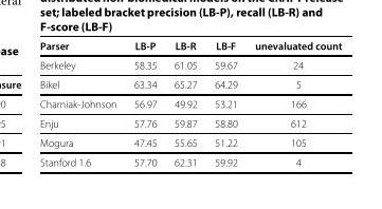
<table><thead><tr><td>Parser</td><td>LB-P</td><td>LB-R</td><td>LB-F</td><td>unevaluated count</td></tr></thead><tbody><tr><td>Berkeley</td><td>58.35</td><td>61.05</td><td>59.67</td><td>24</td></tr><tr><td>Bikel</td><td>63.34</td><td>65.27</td><td>64.29</td><td>5</td></tr><tr><td>Charniak-Johnson</td><td>56.97</td><td>49.92</td><td>53.21</td><td>166</td></tr><tr><td>Enju</td><td>57.76</td><td>59.87</td><td>58.80</td><td>612</td></tr><tr><td>Mogura</td><td>47.45</td><td>55.65</td><td>51.22</td><td>105</td></tr><tr><td>Stanford 1.6</td><td>57.70</td><td>62.31</td><td>59.92</td><td>4</td></tr></tbody></table>